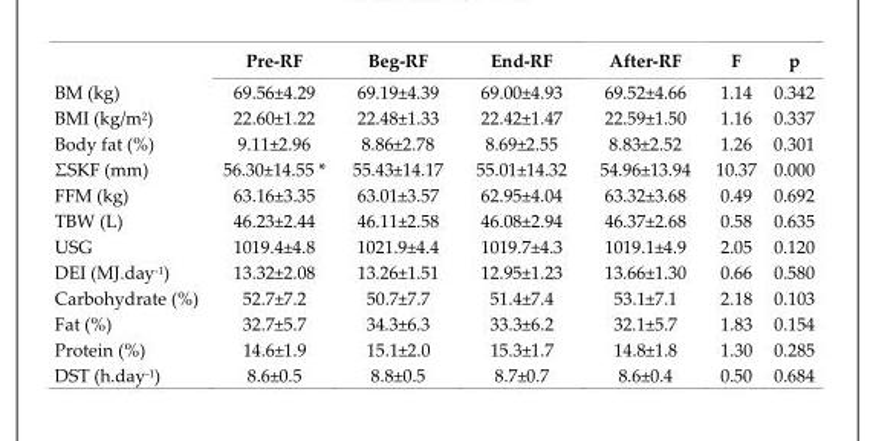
<table><thead><tr><td></td><td>Pre-RF</td><td>Beg-RF</td><td>End-RF</td><td>After-RF</td><td>F</td><td>p</td></tr></thead><tbody><tr><td>BM (kg)</td><td>69.56±4.29</td><td>69.19±4.39</td><td>69.00±4.93</td><td>69.52±4.66</td><td>1.14</td><td>0.342</td></tr><tr><td>BMI (kg/m<sup>2</sup>)</td><td>22.60±1.22</td><td>22.48±1.33</td><td>22.42±1.47</td><td>22.59±1.50</td><td>1.16</td><td>0.337</td></tr><tr><td>Body fat (%)</td><td>9.11±2.96</td><td>8.86±2.78</td><td>8.69±2.55</td><td>8.83±2.52</td><td>1.26</td><td>0.301</td></tr><tr><td>ΣSKF (mm)</td><td>56.30±14.55 *</td><td>55.43±14.17</td><td>55.01±14.32</td><td>54.96±13.94</td><td>10.37</td><td>0.000</td></tr><tr><td>FFM (kg)</td><td>63.16±3.35</td><td>63.01±3.57</td><td>62.95±4.04</td><td>63.32±3.68</td><td>0.49</td><td>0.692</td></tr><tr><td>TBW (L)</td><td>46.23±2.44</td><td>46.11±2.58</td><td>46.08±2.94</td><td>46.37±2.68</td><td>0.58</td><td>0.635</td></tr><tr><td>USG</td><td>1019.4±4.8</td><td>1021.9±4.4</td><td>1019.7±4.3</td><td>1019.1±4.9</td><td>2.05</td><td>0.120</td></tr><tr><td>DEI (MJ.day<sup>-1</sup>)</td><td>13.32±2.08</td><td>13.26±1.51</td><td>12.95±1.23</td><td>13.66±1.30</td><td>0.66</td><td>0.580</td></tr><tr><td>Carbohydrate (%)</td><td>52.7±7.2</td><td>50.7±7.7</td><td>51.4±7.4</td><td>53.1±7.1</td><td>2.18</td><td>0.103</td></tr><tr><td>Fat (%)</td><td>32.7±5.7</td><td>34.3±6.3</td><td>33.3±6.2</td><td>32.1±5.7</td><td>1.83</td><td>0.154</td></tr><tr><td>Protein (%)</td><td>14.6±1.9</td><td>15.1±2.0</td><td>15.3±1.7</td><td>14.8±1.8</td><td>1.30</td><td>0.285</td></tr><tr><td>DST (h.day<sup>-1</sup>)</td><td>8.6±0.5</td><td>8.8±0.5</td><td>8.7±0.7</td><td>8.6±0.4</td><td>0.50</td><td>0.684</td></tr></tbody></table>